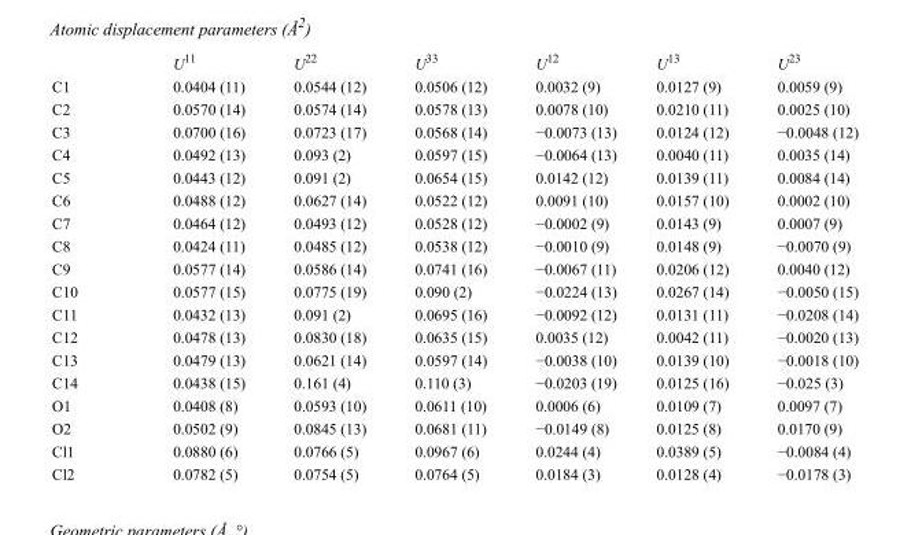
<table><thead><tr><td></td><td>U<sup>11</sup></td><td>U<sup>22</sup></td><td>U<sup>33</sup></td><td>U<sup>12</sup></td><td>U<sup>13</sup></td><td>U<sup>23</sup></td></tr></thead><tbody><tr><td>C1</td><td>0.0404 (11)</td><td>0.0544 (12)</td><td>0.0506 (12)</td><td>0.0032 (9)</td><td>0.0127 (9)</td><td>0.0059 (9)</td></tr><tr><td>C2</td><td>0.0570 (14)</td><td>0.0574 (14)</td><td>0.0578 (13)</td><td>0.0078 (10)</td><td>0.0210 (11)</td><td>0.0025 (10)</td></tr><tr><td>C3</td><td>0.0700 (16)</td><td>0.0723 (17)</td><td>0.0568 (14)</td><td>−0.0073 (13)</td><td>0.0124 (12)</td><td>−0.0048 (12)</td></tr><tr><td>C4</td><td>0.0492 (13)</td><td>0.093 (2)</td><td>0.0597 (15)</td><td>−0.0064 (13)</td><td>0.0040 (11)</td><td>0.0035 (14)</td></tr><tr><td>C5</td><td>0.0443 (12)</td><td>0.091 (2)</td><td>0.0654 (15)</td><td>0.0142 (12)</td><td>0.0139 (11)</td><td>0.0084 (14)</td></tr><tr><td>C6</td><td>0.0488 (12)</td><td>0.0627 (14)</td><td>0.0522 (12)</td><td>0.0091 (10)</td><td>0.0157 (10)</td><td>0.0002 (10)</td></tr><tr><td>C7</td><td>0.0464 (12)</td><td>0.0493 (12)</td><td>0.0528 (12)</td><td>−0.0002 (9)</td><td>0.0143 (9)</td><td>0.0007 (9)</td></tr><tr><td>C8</td><td>0.0424 (11)</td><td>0.0485 (12)</td><td>0.0538 (12)</td><td>−0.0010 (9)</td><td>0.0148 (9)</td><td>−0.0070 (9)</td></tr><tr><td>C9</td><td>0.0577 (14)</td><td>0.0586 (14)</td><td>0.0741 (16)</td><td>−0.0067 (11)</td><td>0.0206 (12)</td><td>0.0040 (12)</td></tr><tr><td>C10</td><td>0.0577 (15)</td><td>0.0775 (19)</td><td>0.090 (2)</td><td>−0.0224 (13)</td><td>0.0267 (14)</td><td>−0.0050 (15)</td></tr><tr><td>C11</td><td>0.0432 (13)</td><td>0.091 (2)</td><td>0.0695 (16)</td><td>−0.0092 (12)</td><td>0.0131 (11)</td><td>−0.0208 (14)</td></tr><tr><td>C12</td><td>0.0478 (13)</td><td>0.0830 (18)</td><td>0.0635 (15)</td><td>0.0035 (12)</td><td>0.0042 (11)</td><td>−0.0020 (13)</td></tr><tr><td>C13</td><td>0.0479 (13)</td><td>0.0621 (14)</td><td>0.0597 (14)</td><td>−0.0038 (10)</td><td>0.0139 (10)</td><td>−0.0018 (10)</td></tr><tr><td>C14</td><td>0.0438 (15)</td><td>0.161 (4)</td><td>0.110 (3)</td><td>−0.0203 (19)</td><td>0.0125 (16)</td><td>−0.025 (3)</td></tr><tr><td>O1</td><td>0.0408 (8)</td><td>0.0593 (10)</td><td>0.0611 (10)</td><td>0.0006 (6)</td><td>0.0109 (7)</td><td>0.0097 (7)</td></tr><tr><td>O2</td><td>0.0502 (9)</td><td>0.0845 (13)</td><td>0.0681 (11)</td><td>−0.0149 (8)</td><td>0.0125 (8)</td><td>0.0170 (9)</td></tr><tr><td>Cl1</td><td>0.0880 (6)</td><td>0.0766 (5)</td><td>0.0967 (6)</td><td>0.0244 (4)</td><td>0.0389 (5)</td><td>−0.0084 (4)</td></tr><tr><td>Cl2</td><td>0.0782 (5)</td><td>0.0754 (5)</td><td>0.0764 (5)</td><td>0.0184 (3)</td><td>0.0128 (4)</td><td>−0.0178 (3)</td></tr></tbody></table>